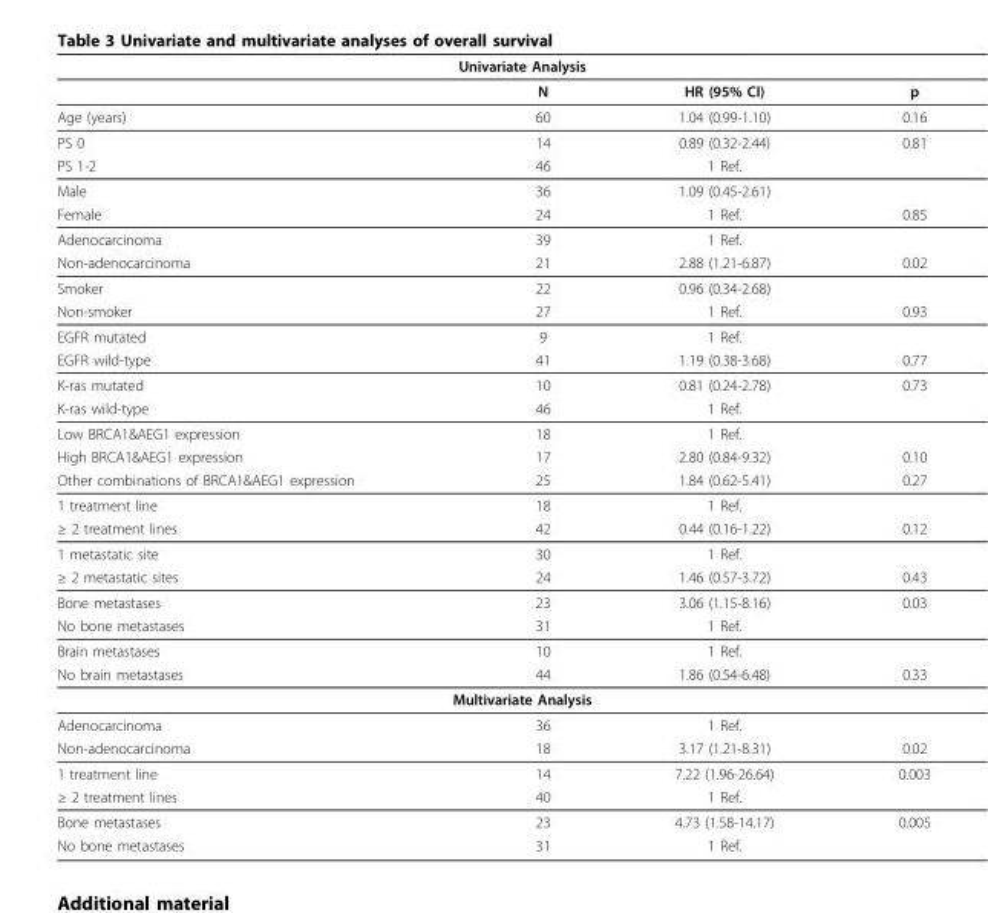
<table><thead><tr><td colspan="4">Univariate Analysis</td></tr><tr><td></td><td>N</td><td>HR (95% CI)</td><td>p</td></tr></thead><tbody><tr><td>Age (years)</td><td>60</td><td>1.04 (0.99-1.10)</td><td>0.16</td></tr><tr><td>PS 0</td><td>14</td><td>0.89 (0.32-2.44)</td><td>0.81</td></tr><tr><td>PS 1-2</td><td>46</td><td>1 Ref.</td><td></td></tr><tr><td>Male</td><td>36</td><td>1.09 (0.45-2.61)</td><td></td></tr><tr><td>Female</td><td>24</td><td>1 Ref.</td><td>0.85</td></tr><tr><td>Adenocarcinoma</td><td>39</td><td>1 Ref.</td><td></td></tr><tr><td>Non-adenocarcinoma</td><td>21</td><td>2.88 (1.21-6.87)</td><td>0.02</td></tr><tr><td>Smoker</td><td>22</td><td>0.96 (0.34-2.68)</td><td></td></tr><tr><td>Non-smoker</td><td>27</td><td>1 Ref.</td><td>0.93</td></tr><tr><td>EGFR mutated</td><td>9</td><td>1 Ref.</td><td></td></tr><tr><td>EGFR wild-type</td><td>41</td><td>1.19 (0.38-3.68)</td><td>0.77</td></tr><tr><td>K-ras mutated</td><td>10</td><td>0.81 (0.24-2.78)</td><td>0.73</td></tr><tr><td>K-ras wild-type</td><td>46</td><td>1 Ref.</td><td></td></tr><tr><td>Low BRCA1&amp;AEG1 expression</td><td>18</td><td>1 Ref.</td><td></td></tr><tr><td>High BRCA1&amp;AEG1 expression</td><td>17</td><td>2.80 (0.84-9.32)</td><td>0.10</td></tr><tr><td>Other combinations of BRCA1&amp;AEG1 expression</td><td>25</td><td>1.84 (0.62-5.41)</td><td>0.27</td></tr><tr><td>1 treatment line</td><td>18</td><td>1 Ref.</td><td></td></tr><tr><td>≥ 2 treatment lines</td><td>42</td><td>0.44 (0.16-1.22)</td><td>0.12</td></tr><tr><td>1 metastatic site</td><td>30</td><td>1 Ref.</td><td></td></tr><tr><td>≥ 2 metastatic sites</td><td>24</td><td>1.46 (0.57-3.72)</td><td>0.43</td></tr><tr><td>Bone metastases</td><td>23</td><td>3.06 (1.15-8.16)</td><td>0.03</td></tr><tr><td>No bone metastases</td><td>31</td><td>1 Ref.</td><td></td></tr><tr><td>Brain metastases</td><td>10</td><td>1 Ref.</td><td></td></tr><tr><td>No brain metastases</td><td>44</td><td>1.86 (0.54-6.48)</td><td>0.33</td></tr><tr><td colspan="4">Multivariate Analysis</td></tr><tr><td>Adenocarcinoma</td><td>36</td><td>1 Ref.</td><td></td></tr><tr><td>Non-adenocarcinoma</td><td>18</td><td>3.17 (1.21-8.31)</td><td>0.02</td></tr><tr><td>1 treatment line</td><td>14</td><td>7.22 (1.96-26.64)</td><td>0.003</td></tr><tr><td>≥ 2 treatment lines</td><td>40</td><td>1 Ref.</td><td></td></tr><tr><td>Bone metastases</td><td>23</td><td>4.73 (1.58-14.17)</td><td>0.005</td></tr><tr><td>No bone metastases</td><td>31</td><td>1 Ref.</td><td></td></tr></tbody></table>